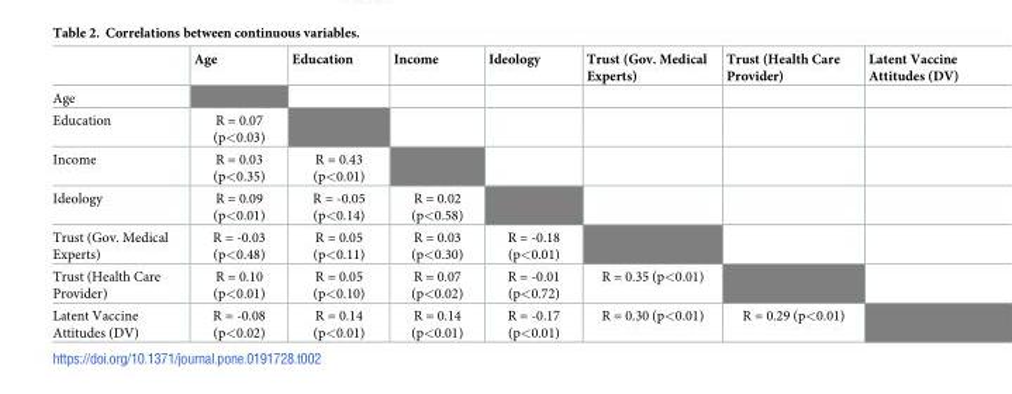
<table><thead><tr><td></td><td>Age</td><td>Education</td><td>Income</td><td>Ideology</td><td>Trust (Gov. Medical Experts)</td><td>Trust (Health Care Provider)</td><td>Latent Vaccine Attitudes (DV)</td></tr></thead><tbody><tr><td colspan="8">Age</td></tr><tr><td>Education</td><td>R = 0.07 (p&lt;0.03)</td><td></td><td></td><td></td><td></td><td></td><td></td></tr><tr><td>Income</td><td>R = 0.03 (p&lt;0.35)</td><td>R = 0.43 (p&lt;0.01)</td><td></td><td></td><td></td><td></td><td></td></tr><tr><td>Ideology</td><td>R = 0.09 (p&lt;0.01)</td><td>R = -0.05 (p&lt;0.14)</td><td>R = 0.02 (p&lt;0.58)</td><td></td><td></td><td></td><td></td></tr><tr><td>Trust (Gov. Medical Experts)</td><td>R = -0.03 (p&lt;0.48)</td><td>R = 0.05 (p&lt;0.11)</td><td>R = 0.03 (p&lt;0.30)</td><td>R = -0.18 (p&lt;0.01)</td><td></td><td></td><td></td></tr><tr><td>Trust (Health Care Provider)</td><td>R = 0.10 (p&lt;0.01)</td><td>R = 0.05 (p&lt;0.10)</td><td>R = 0.07 (p&lt;0.02)</td><td>R = -0.01 (p&lt;0.72)</td><td>R = 0.35 (p&lt;0.01)</td><td></td><td></td></tr><tr><td>Latent Vaccine Attitudes (DV)</td><td>R = -0.08 (p&lt;0.02)</td><td>R = 0.14 (p&lt;0.01)</td><td>R = 0.14 (p&lt;0.01)</td><td>R = -0.17 (p&lt;0.01)</td><td>R = 0.30 (p&lt;0.01)</td><td>R = 0.29 (p&lt;0.01)</td><td></td></tr></tbody></table>